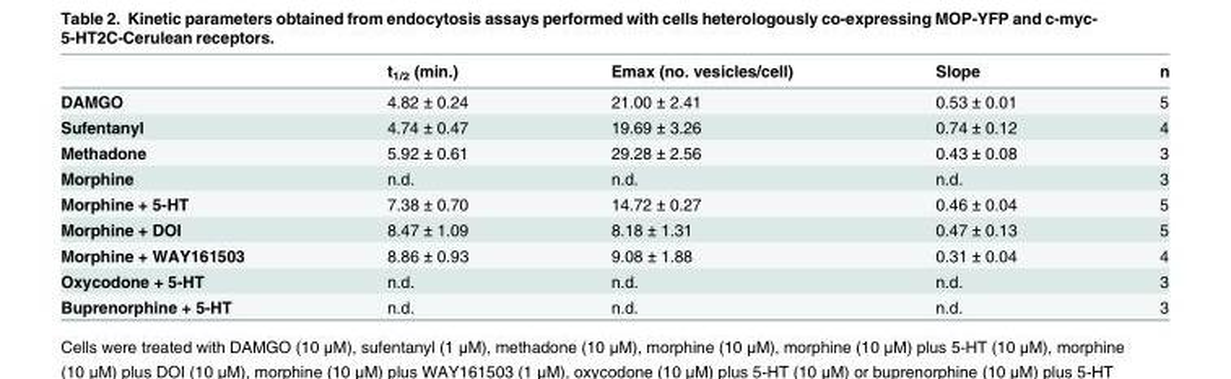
<table><thead><tr><td></td><td>t<sub>1/2</sub> (min.)</td><td>Emax (no. vesicles/cell)</td><td>Slope</td><td>n</td></tr></thead><tbody><tr><td>DAMGO</td><td>4.82 ± 0.24</td><td>21.00 ± 2.41</td><td>0.53 ± 0.01</td><td>5</td></tr><tr><td>Sufentanyl</td><td>4.74 ± 0.47</td><td>19.69 ± 3.26</td><td>0.74 ± 0.12</td><td>4</td></tr><tr><td>Methadone</td><td>5.92 ± 0.61</td><td>29.28 ± 2.56</td><td>0.43 ± 0.08</td><td>3</td></tr><tr><td>Morphine</td><td>n.d.</td><td>n.d.</td><td>n.d.</td><td>3</td></tr><tr><td>Morphine + 5-HT</td><td>7.38 ± 0.70</td><td>14.72 ± 0.27</td><td>0.46 ± 0.04</td><td>5</td></tr><tr><td>Morphine + DOI</td><td>8.47 ± 1.09</td><td>8.18 ± 1.31</td><td>0.47 ± 0.13</td><td>5</td></tr><tr><td>Morphine + WAY161503</td><td>8.86 ± 0.93</td><td>9.08 ± 1.88</td><td>0.31 ± 0.04</td><td>4</td></tr><tr><td>Oxycodone + 5-HT</td><td>n.d.</td><td>n.d.</td><td>n.d.</td><td>3</td></tr><tr><td>Buprenorphine + 5-HT</td><td>n.d.</td><td>n.d.</td><td>n.d.</td><td>3</td></tr></tbody></table>